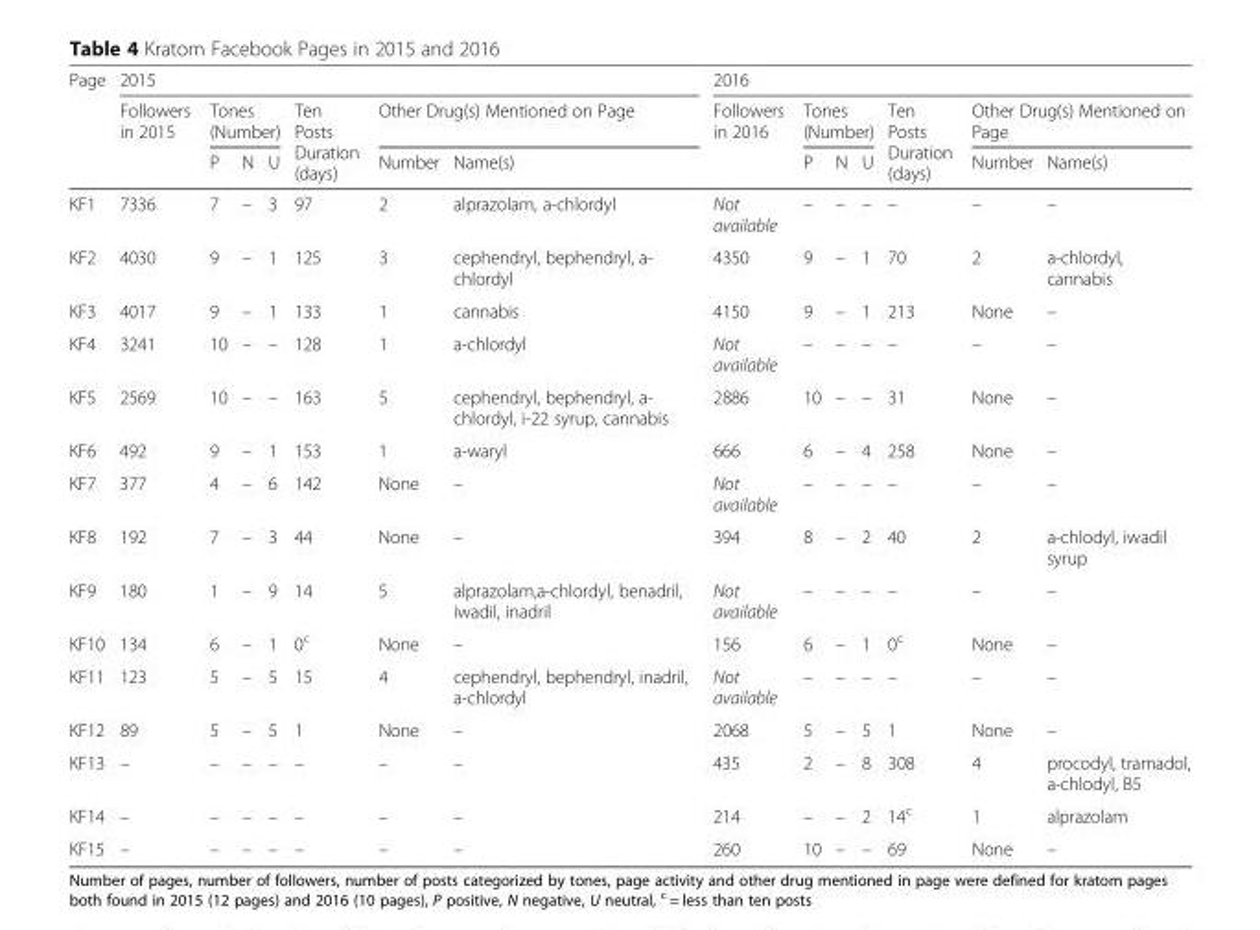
<table><thead><tr><td rowspan="3">Page</td><td colspan="7">2015</td><td colspan="7">2016</td></tr><tr><td rowspan="2">Followers in 2015</td><td colspan="3">Tones (Number)</td><td rowspan="2">Ten Posts Duration (days)</td><td colspan="2">Other Drug(s) Mentioned on Page</td><td rowspan="2">Followers in 2016</td><td colspan="3">Tones (Number)</td><td rowspan="2">Ten Posts Duration (days)</td><td colspan="2">Other Drug(s) Mentioned on Page</td></tr><tr><td>P</td><td>N</td><td>U</td><td>Number</td><td>Name(s)</td><td>P</td><td>N</td><td>U</td><td>Number</td><td>Name(s)</td></tr></thead><tbody><tr><td>KF1</td><td>7336</td><td>7</td><td>–</td><td>3</td><td>97</td><td>2</td><td>alprazolam, a-chlordyl</td><td>Not available</td><td>–</td><td>–</td><td>–</td><td>–</td><td>–</td><td>–</td></tr><tr><td>KF2</td><td>4030</td><td>9</td><td>–</td><td>1</td><td>125</td><td>3</td><td>cephendryl, bephendryl, a- chlordyl</td><td>4350</td><td>9</td><td>–</td><td>1</td><td>70</td><td>2</td><td>a-chlordyl, cannabis</td></tr><tr><td>KF3</td><td>4017</td><td>9</td><td>–</td><td>1</td><td>133</td><td>1</td><td>cannabis</td><td>4150</td><td>9</td><td>–</td><td>1</td><td>213</td><td>None</td><td>–</td></tr><tr><td>KF4</td><td>3241</td><td>10</td><td>–</td><td>–</td><td>128</td><td>1</td><td>a-chlordyl</td><td>Not available</td><td>–</td><td>–</td><td>–</td><td>–</td><td>–</td><td>–</td></tr><tr><td>KF5</td><td>2569</td><td>10</td><td>–</td><td>–</td><td>163</td><td>5</td><td>cephendryl, bephendryl, a- chlordyl, i-22 syrup, cannabis</td><td>2886</td><td>10</td><td>–</td><td>–</td><td>31</td><td>None</td><td>–</td></tr><tr><td>KF6</td><td>492</td><td>9</td><td>–</td><td>1</td><td>153</td><td>1</td><td>a-waryl</td><td>666</td><td>6</td><td>–</td><td>4</td><td>258</td><td>None</td><td>–</td></tr><tr><td>KF7</td><td>377</td><td>4</td><td>–</td><td>6</td><td>142</td><td>None</td><td>–</td><td>Not available</td><td>–</td><td>–</td><td>–</td><td>–</td><td>–</td><td>–</td></tr><tr><td>KF8</td><td>192</td><td>7</td><td>–</td><td>3</td><td>44</td><td>None</td><td>–</td><td>394</td><td>8</td><td>–</td><td>2</td><td>40</td><td>2</td><td>a-chlodyl, iwadil syrup</td></tr><tr><td>KF9</td><td>180</td><td>1</td><td>–</td><td>9</td><td>14</td><td>5</td><td>alprazolam,a-chlordyl, benadril, iwadil, inadril</td><td>Not available</td><td>–</td><td>–</td><td>–</td><td>–</td><td>–</td><td>–</td></tr><tr><td>KF10</td><td>134</td><td>6</td><td>–</td><td>1</td><td>0<sup>c</sup></td><td>None</td><td>–</td><td>156</td><td>6</td><td>–</td><td>1</td><td>0<sup>c</sup></td><td>None</td><td>–</td></tr><tr><td>KF11</td><td>123</td><td>5</td><td>–</td><td>5</td><td>15</td><td>4</td><td>cephendryl, bephendryl, inadril, a-chlordyl</td><td>Not available</td><td>–</td><td>–</td><td>–</td><td>–</td><td>–</td><td>–</td></tr><tr><td>KF12</td><td>89</td><td>5</td><td>–</td><td>5</td><td>1</td><td>None</td><td>–</td><td>2068</td><td>5</td><td>–</td><td>5</td><td>1</td><td>None</td><td>–</td></tr><tr><td>KF13</td><td>–</td><td>–</td><td>–</td><td>–</td><td>–</td><td>–</td><td>–</td><td>435</td><td>2</td><td>–</td><td>8</td><td>308</td><td>4</td><td>procodyl, tramadol, a-chlodyl, B5</td></tr><tr><td>KF14</td><td>–</td><td>–</td><td>–</td><td>–</td><td>–</td><td>–</td><td>–</td><td>214</td><td>–</td><td>–</td><td>2</td><td>14<sup>c</sup></td><td>1</td><td>alprazolam</td></tr><tr><td>KF15</td><td>–</td><td>–</td><td>–</td><td>–</td><td>–</td><td>–</td><td>–</td><td>260</td><td>10</td><td>–</td><td>–</td><td>69</td><td>None</td><td>–</td></tr></tbody></table>